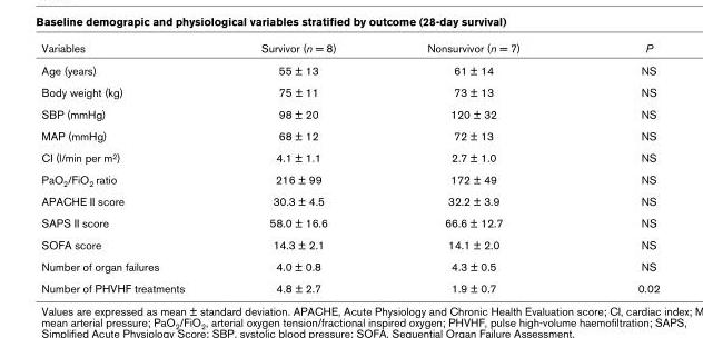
<table><thead><tr><td>Variables</td><td>Survivor (n = 8)</td><td>Nonsurvivor (n = 7)</td><td>P</td></tr></thead><tbody><tr><td>Age (years)</td><td>55 ± 13</td><td>61 ± 14</td><td>NS</td></tr><tr><td>Body weight (kg)</td><td>75 ± 11</td><td>73 ± 13</td><td>NS</td></tr><tr><td>SBP (mmHg)</td><td>98 ± 20</td><td>120 ± 32</td><td>NS</td></tr><tr><td>MAP (mmHg)</td><td>68 ± 12</td><td>72 ± 13</td><td>NS</td></tr><tr><td>CI (l/min per m2)</td><td>4.1 ± 1.1</td><td>2.7 ± 1.0</td><td>NS</td></tr><tr><td>PaO2/FiO2 ratio</td><td>216 ± 99</td><td>172 ± 49</td><td>NS</td></tr><tr><td>APACHE II score</td><td>30.3 ± 4.5</td><td>32.2 ± 3.9</td><td>NS</td></tr><tr><td>SAPS II score</td><td>58.0 ± 16.6</td><td>66.6 ± 12.7</td><td>NS</td></tr><tr><td>SOFA score</td><td>14.3 ± 2.1</td><td>14.1 ± 2.0</td><td>NS</td></tr><tr><td>Number of organ failures</td><td>4.0 ± 0.8</td><td>4.3 ± 0.5</td><td>NS</td></tr><tr><td>Number of PHVHF treatments</td><td>4.8 ± 2.7</td><td>1.9 ± 0.7</td><td>0.02</td></tr></tbody></table>